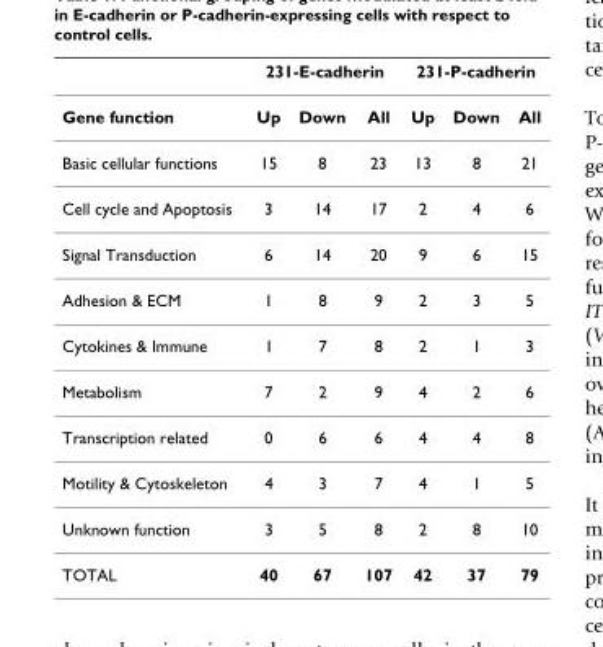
<table><thead><tr><td rowspan="2">Gene function</td><td colspan="3">231-E-cadherin</td><td colspan="3">231-P-cadherin</td></tr><tr><td>Up</td><td>Down</td><td>All</td><td>Up</td><td>Down</td><td>All</td></tr></thead><tbody><tr><td>Basic cellular functions</td><td>15</td><td>8</td><td>23</td><td>13</td><td>8</td><td>21</td></tr><tr><td>Cell cycle and Apoptosis</td><td>3</td><td>14</td><td>17</td><td>2</td><td>4</td><td>6</td></tr><tr><td>Signal Transduction</td><td>6</td><td>14</td><td>20</td><td>9</td><td>6</td><td>15</td></tr><tr><td>Adhesion &amp; ECM</td><td>1</td><td>8</td><td>9</td><td>2</td><td>3</td><td>5</td></tr><tr><td>Cytokines &amp; Immune</td><td>1</td><td>7</td><td>8</td><td>2</td><td>1</td><td>3</td></tr><tr><td>Metabolism</td><td>7</td><td>2</td><td>9</td><td>4</td><td>2</td><td>6</td></tr><tr><td>Transcription related</td><td>0</td><td>6</td><td>6</td><td>4</td><td>4</td><td>8</td></tr><tr><td>Motility &amp; Cytoskeleton</td><td>4</td><td>3</td><td>7</td><td>4</td><td>1</td><td>5</td></tr><tr><td>Unknown function</td><td>3</td><td>5</td><td>8</td><td>2</td><td>8</td><td>10</td></tr><tr><td>TOTAL</td><td>40</td><td>67</td><td>107</td><td>42</td><td>37</td><td>79</td></tr></tbody></table>